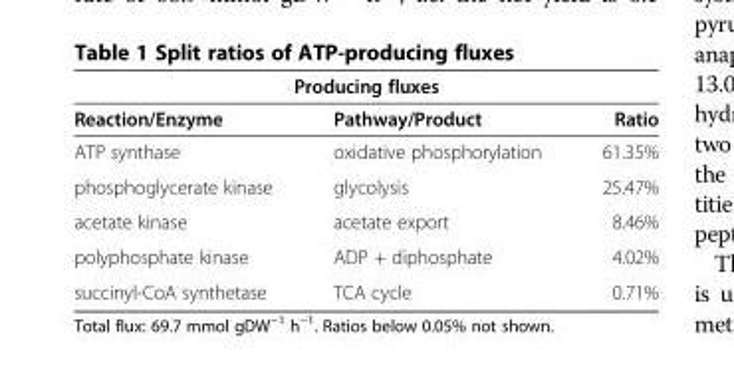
<table><thead><tr><td colspan="3">Producing fluxes</td></tr><tr><td>Reaction/Enzyme</td><td>Pathway/Product</td><td>Ratio</td></tr></thead><tbody><tr><td>ATP synthase</td><td>oxidative phosphorylation</td><td>61.35%</td></tr><tr><td>phosphoglycerate kinase</td><td>glycolysis</td><td>25.47%</td></tr><tr><td>acetate kinase</td><td>acetate export</td><td>8.46%</td></tr><tr><td>polyphosphate kinase</td><td>ADP + diphosphate</td><td>4.02%</td></tr><tr><td>succinyl-CoA synthetase</td><td>TCA cycle</td><td>0.71%</td></tr></tbody></table>